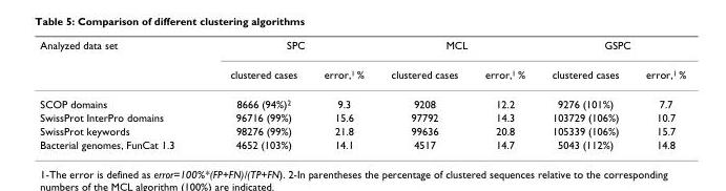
<table><thead><tr><td rowspan="2">Analyzed data set</td><td colspan="2">SPC</td><td colspan="2">MCL</td><td colspan="2">GSPC</td></tr><tr><td>clustered cases</td><td>error,1 %</td><td>clustered cases</td><td>error,1 %</td><td>clustered cases</td><td>error,1 %</td></tr></thead><tbody><tr><td>SCOP domains</td><td>8666 (94%)2</td><td>9.3</td><td>9208</td><td>12.2</td><td>9276 (101%)</td><td>7.7</td></tr><tr><td>SwissProt InterPro domains</td><td>96716 (99%)</td><td>15.6</td><td>97792</td><td>14.3</td><td>103729 (106%)</td><td>10.7</td></tr><tr><td>SwissProt keywords</td><td>98276 (99%)</td><td>21.8</td><td>99636</td><td>20.8</td><td>105339 (106%)</td><td>15.7</td></tr><tr><td>Bacterial genomes, FunCat 1.3</td><td>4652 (103%)</td><td>14.1</td><td>4517</td><td>14.7</td><td>5043 (112%)</td><td>14.8</td></tr></tbody></table>